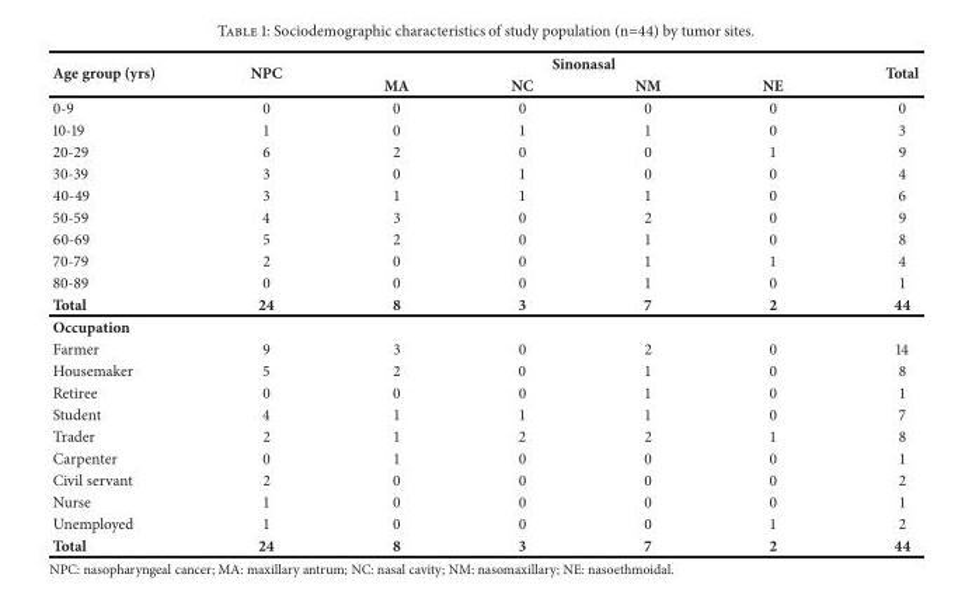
<table><thead><tr><td rowspan="2">Age group (yrs)</td><td rowspan="2">NPC</td><td colspan="4">Sinonasal</td><td rowspan="2">Total</td></tr><tr><td>MA</td><td>NC</td><td>NM</td><td>NE</td></tr></thead><tbody><tr><td>0-9</td><td>0</td><td>0</td><td>0</td><td>0</td><td>0</td><td>0</td></tr><tr><td>10-19</td><td>1</td><td>0</td><td>1</td><td>1</td><td>0</td><td>3</td></tr><tr><td>20-29</td><td>6</td><td>2</td><td>0</td><td>0</td><td>1</td><td>9</td></tr><tr><td>30-39</td><td>3</td><td>0</td><td>1</td><td>0</td><td>0</td><td>4</td></tr><tr><td>40-49</td><td>3</td><td>1</td><td>1</td><td>1</td><td>0</td><td>6</td></tr><tr><td>50-59</td><td>4</td><td>3</td><td>0</td><td>2</td><td>0</td><td>9</td></tr><tr><td>60-69</td><td>5</td><td>2</td><td>0</td><td>1</td><td>0</td><td>8</td></tr><tr><td>70-79</td><td>2</td><td>0</td><td>0</td><td>1</td><td>1</td><td>4</td></tr><tr><td>80-89</td><td>0</td><td>0</td><td>0</td><td>1</td><td>0</td><td>1</td></tr><tr><td>Total</td><td>24</td><td>8</td><td>3</td><td>7</td><td>2</td><td>44</td></tr><tr><td colspan="7">Occupation</td></tr><tr><td>Farmer</td><td>9</td><td>3</td><td>0</td><td>2</td><td>0</td><td>14</td></tr><tr><td>Housemaker</td><td>5</td><td>2</td><td>0</td><td>1</td><td>0</td><td>8</td></tr><tr><td>Retiree</td><td>0</td><td>0</td><td>0</td><td>1</td><td>0</td><td>1</td></tr><tr><td>Student</td><td>4</td><td>1</td><td>1</td><td>1</td><td>0</td><td>7</td></tr><tr><td>Trader</td><td>2</td><td>1</td><td>2</td><td>2</td><td>1</td><td>8</td></tr><tr><td>Carpenter</td><td>0</td><td>1</td><td>0</td><td>0</td><td>0</td><td>1</td></tr><tr><td>Civil servant</td><td>2</td><td>0</td><td>0</td><td>0</td><td>0</td><td>2</td></tr><tr><td>Nurse</td><td>1</td><td>0</td><td>0</td><td>0</td><td>0</td><td>1</td></tr><tr><td>Unemployed</td><td>1</td><td>0</td><td>0</td><td>0</td><td>1</td><td>2</td></tr><tr><td>Total</td><td>24</td><td>8</td><td>3</td><td>7</td><td>2</td><td>44</td></tr></tbody></table>